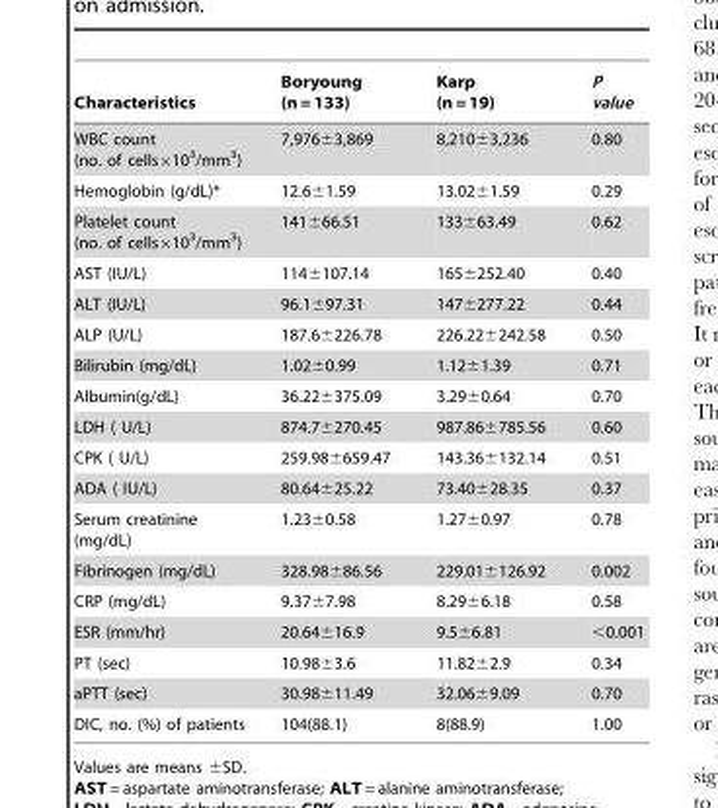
<table><thead><tr><td>Characteristics</td><td>Boryoung (n = 133)</td><td>Karp (n = 19)</td><td>P value</td></tr></thead><tbody><tr><td>WBC count (no. of cells×10<sup>3</sup>/mm<sup>3</sup>)</td><td>7,976±3,869</td><td>8,210±3,236</td><td>0.80</td></tr><tr><td>Hemoglobin (g/dL)*</td><td>12.6±1.59</td><td>13.02±1.59</td><td>0.29</td></tr><tr><td>Platelet count (no. of cells×10<sup>3</sup>/mm<sup>3</sup>)</td><td>141±66.51</td><td>133±63.49</td><td>0.62</td></tr><tr><td>AST (IU/L)</td><td>114±107.14</td><td>165±252.40</td><td>0.40</td></tr><tr><td>ALT (IU/L)</td><td>96.1±97.31</td><td>147±277.22</td><td>0.44</td></tr><tr><td>ALP (U/L)</td><td>187.6±226.78</td><td>226.22±242.58</td><td>0.50</td></tr><tr><td>Bilirubin (mg/dL)</td><td>1.02±0.99</td><td>1.12±1.39</td><td>0.71</td></tr><tr><td>Albumin(g/dL)</td><td>36.22±375.09</td><td>3.29±0.64</td><td>0.70</td></tr><tr><td>LDH ( U/L)</td><td>874.7±270.45</td><td>987.86±785.56</td><td>0.60</td></tr><tr><td>CPK ( U/L)</td><td>259.98±659.47</td><td>143.36±132.14</td><td>0.51</td></tr><tr><td>ADA ( IU/L)</td><td>80.64±25.22</td><td>73.40±28.35</td><td>0.37</td></tr><tr><td>Serum creatinine (mg/dL)</td><td>1.23±0.58</td><td>1.27±0.97</td><td>0.78</td></tr><tr><td>Fibrinogen (mg/dL)</td><td>328.98±86.56</td><td>229.01±126.92</td><td>0.002</td></tr><tr><td>CRP (mg/dL)</td><td>9.37±7.98</td><td>8.29±6.18</td><td>0.58</td></tr><tr><td>ESR (mm/hr)</td><td>20.64±16.9</td><td>9.5±6.81</td><td>&lt;0.001</td></tr><tr><td>PT (sec)</td><td>10.98±3.6</td><td>11.82±2.9</td><td>0.34</td></tr><tr><td>aPTT (sec)</td><td>30.98±11.49</td><td>32.06±9.09</td><td>0.70</td></tr><tr><td>DIC, no. (%) of patients</td><td>104(88.1)</td><td>8(88.9)</td><td>1.00</td></tr></tbody></table>